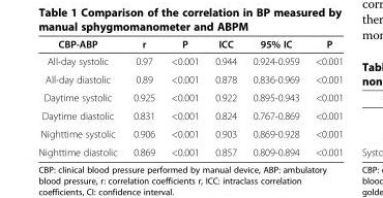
<table><thead><tr><td>CBP-ABP</td><td>r</td><td>P</td><td>ICC</td><td>95% IC</td><td>P</td></tr></thead><tbody><tr><td>All-day systolic</td><td>0.97</td><td>&lt;0.001</td><td>0.944</td><td>0.924-0.959</td><td>&lt;0.001</td></tr><tr><td>All-day diastolic</td><td>0.89</td><td>&lt;0.001</td><td>0.878</td><td>0.836-0.969</td><td>&lt;0.001</td></tr><tr><td>Daytime systolic</td><td>0.925</td><td>&lt;0.001</td><td>0.922</td><td>0.895-0.943</td><td>&lt;0.001</td></tr><tr><td>Daytime diastolic</td><td>0.831</td><td>&lt;0.001</td><td>0.824</td><td>0.767-0.869</td><td>&lt;0.001</td></tr><tr><td>Nighttime systolic</td><td>0.906</td><td>&lt;0.001</td><td>0.903</td><td>0.869-0.928</td><td>&lt;0.001</td></tr><tr><td>Nighttime diastolic</td><td>0.869</td><td>&lt;0.001</td><td>0.857</td><td>0.809-0.894</td><td>&lt;0.001</td></tr></tbody></table>